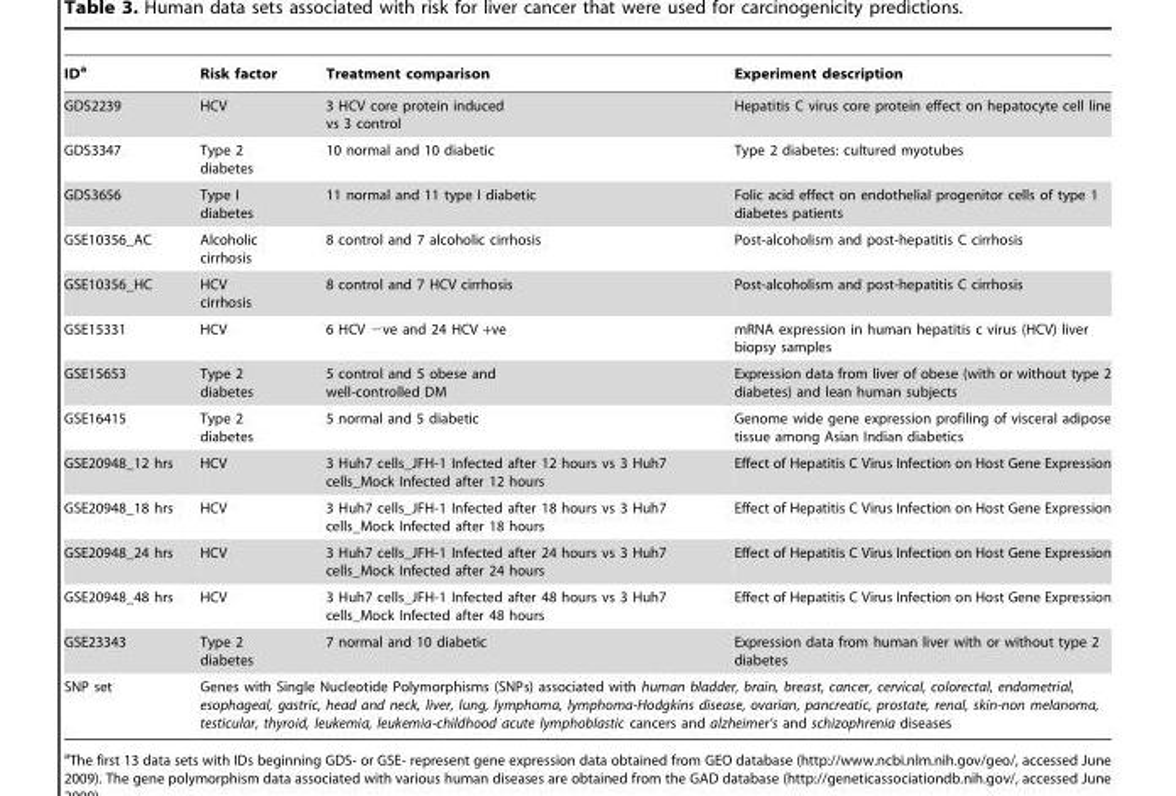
<table><thead><tr><td>ID<sup>a</sup></td><td>Risk factor</td><td>Treatment comparison</td><td>Experiment description</td></tr></thead><tbody><tr><td>GDS2239</td><td>HCV</td><td>3 HCV core protein induced vs 3 control</td><td>Hepatitis C virus core protein effect on hepatocyte cell line</td></tr><tr><td>GDS3347</td><td>Type 2 diabetes</td><td>10 normal and 10 diabetic</td><td>Type 2 diabetes: cultured myotubes</td></tr><tr><td>GDS3656</td><td>Type I diabetes</td><td>11 normal and 11 type I diabetic</td><td>Folic acid effect on endothelial progenitor cells of type 1 diabetes patients</td></tr><tr><td>GSE10356_AC</td><td>Alcoholic cirrhosis</td><td>8 control and 7 alcoholic cirrhosis</td><td>Post-alcoholism and post-hepatitis C cirrhosis</td></tr><tr><td>GSE10356_HC</td><td>HCV cirrhosis</td><td>8 control and 7 HCV cirrhosis</td><td>Post-alcoholism and post-hepatitis C cirrhosis</td></tr><tr><td>GSE15331</td><td>HCV</td><td>6 HCV −ve and 24 HCV +ve</td><td>mRNA expression in human hepatitis c virus (HCV) liver biopsy samples</td></tr><tr><td>GSE15653</td><td>Type 2 diabetes</td><td>5 control and 5 obese and well-controlled DM</td><td>Expression data from liver of obese (with or without type 2 diabetes) and lean human subjects</td></tr><tr><td>GSE16415</td><td>Type 2 diabetes</td><td>5 normal and 5 diabetic</td><td>Genome wide gene expression profiling of visceral adipose tissue among Asian Indian diabetics</td></tr><tr><td>GSE20948_12 hrs</td><td>HCV</td><td>3 Huh7 cells_JFH-1 Infected after 12 hours vs 3 Huh7 cells_Mock Infected after 12 hours</td><td>Effect of Hepatitis C Virus Infection on Host Gene Expression</td></tr><tr><td>GSE20948_18 hrs</td><td>HCV</td><td>3 Huh7 cells_JFH-1 Infected after 18 hours vs 3 Huh7 cells_Mock Infected after 18 hours</td><td>Effect of Hepatitis C Virus Infection on Host Gene Expression</td></tr><tr><td>GSE20948_24 hrs</td><td>HCV</td><td>3 Huh7 cells_JFH-1 Infected after 24 hours vs 3 Huh7 cells_Mock Infected after 24 hours</td><td>Effect of Hepatitis C Virus Infection on Host Gene Expression</td></tr><tr><td>GSE20948_48 hrs</td><td>HCV</td><td>3 Huh7 cells_JFH-1 Infected after 48 hours vs 3 Huh7 cells_Mock Infected after 48 hours</td><td>Effect of Hepatitis C Virus Infection on Host Gene Expression</td></tr><tr><td>GSE23343</td><td>Type 2 diabetes</td><td>7 normal and 10 diabetic</td><td>Expression data from human liver with or without type 2 diabetes</td></tr><tr><td>SNP set</td><td colspan="3">Genes with Single Nucleotide Polymorphisms (SNPs) associated with human bladder, brain, breast, cancer, cervical, colorectal, endometrial, esophageal, gastric, head and neck, liver, lung, lymphoma, lymphoma-Hodgkins disease, ovarian, pancreatic, prostate, renal, skin-non melanoma, testicular, thyroid, leukemia, leukemia-childhood acute lymphoblastic cancers and alzheimer’s and schizophrenia diseases</td></tr></tbody></table>